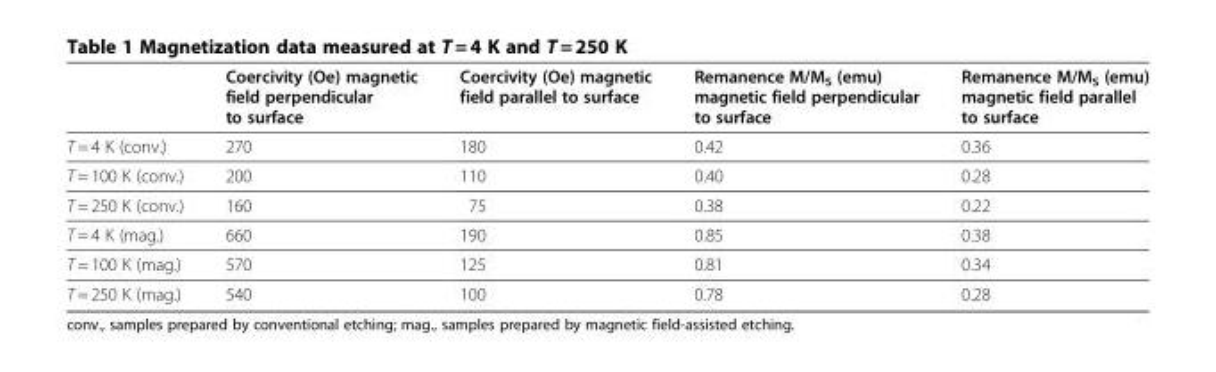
<table><thead><tr><td></td><td>Coercivity (Oe) magnetic field perpendicular to surface</td><td>Coercivity (Oe) magnetic field parallel to surface</td><td>Remanence M/M<sub>S</sub> (emu) magnetic field perpendicular to surface</td><td>Remanence M/M<sub>S</sub> (emu) magnetic field parallel to surface</td></tr></thead><tbody><tr><td>T = 4 K (conv.)</td><td>270</td><td>180</td><td>0.42</td><td>0.36</td></tr><tr><td>T = 100 K (conv.)</td><td>200</td><td>110</td><td>0.40</td><td>0.28</td></tr><tr><td>T = 250 K (conv.)</td><td>160</td><td>75</td><td>0.38</td><td>0.22</td></tr><tr><td>T = 4 K (mag.)</td><td>660</td><td>190</td><td>0.85</td><td>0.38</td></tr><tr><td>T = 100 K (mag.)</td><td>570</td><td>125</td><td>0.81</td><td>0.34</td></tr><tr><td>T = 250 K (mag.)</td><td>540</td><td>100</td><td>0.78</td><td>0.28</td></tr></tbody></table>